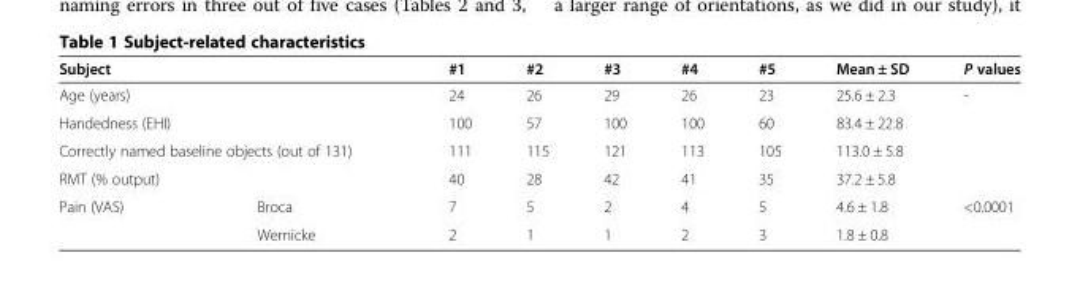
<table><thead><tr><td colspan="2">Subject</td><td>#1</td><td>#2</td><td>#3</td><td>#4</td><td>#5</td><td>Mean ± SD</td><td>P values</td></tr></thead><tbody><tr><td colspan="2">Age (years)</td><td>24</td><td>26</td><td>29</td><td>26</td><td>23</td><td>25.6 ± 2.3</td><td rowspan="4">-</td></tr><tr><td colspan="2">Handedness (EHI)</td><td>100</td><td>57</td><td>100</td><td>100</td><td>60</td><td>83.4 ± 22.8</td></tr><tr><td colspan="2">Correctly named baseline objects (out of 131)</td><td>111</td><td>115</td><td>121</td><td>113</td><td>105</td><td>113.0 ± 5.8</td></tr><tr><td colspan="2">RMT (% output)</td><td>40</td><td>28</td><td>42</td><td>41</td><td>35</td><td>37.2 ± 5.8</td></tr><tr><td rowspan="2">Pain (VAS)</td><td>Broca</td><td>7</td><td>5</td><td>2</td><td>4</td><td>5</td><td>4.6 ± 1.8</td><td rowspan="2">&lt;0.0001</td></tr><tr><td>Wernicke</td><td>2</td><td>1</td><td>1</td><td>2</td><td>3</td><td>1.8 ± 0.8</td></tr></tbody></table>